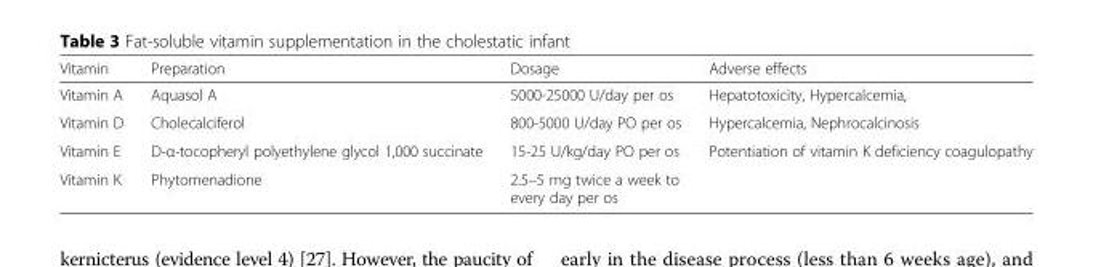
<table><thead><tr><td>Vitamin</td><td>Preparation</td><td>Dosage</td><td>Adverse effects</td></tr></thead><tbody><tr><td>Vitamin A</td><td>Aquasol A</td><td>5000-25000 U/day per os</td><td>Hepatotoxicity, Hypercalcemia,</td></tr><tr><td>Vitamin D</td><td>Cholecalciferol</td><td>800-5000 U/day PO per os</td><td>Hypercalcemia, Nephrocalcinosis</td></tr><tr><td>Vitamin E</td><td>D-α-tocopheryl polyethylene glycol 1,000 succinate</td><td>15-25 U/kg/day PO per os</td><td>Potentiation of vitamin K deficiency coagulopathy</td></tr><tr><td>Vitamin K</td><td>Phytomenadione</td><td>2.5–5 mg twice a week to every day per os</td><td></td></tr></tbody></table>